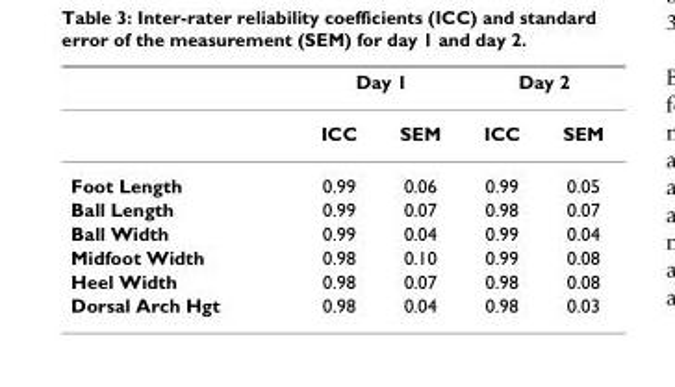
<table><thead><tr><td rowspan="2"></td><td colspan="2">Day 1</td><td colspan="2">Day 2</td></tr><tr><td>ICC</td><td>SEM</td><td>ICC</td><td>SEM</td></tr></thead><tbody><tr><td>Foot Length</td><td>0.99</td><td>0.06</td><td>0.99</td><td>0.05</td></tr><tr><td>Ball Length</td><td>0.99</td><td>0.07</td><td>0.98</td><td>0.07</td></tr><tr><td>Ball Width</td><td>0.99</td><td>0.04</td><td>0.99</td><td>0.04</td></tr><tr><td>Midfoot Width</td><td>0.98</td><td>0.10</td><td>0.99</td><td>0.08</td></tr><tr><td>Heel Width</td><td>0.98</td><td>0.07</td><td>0.98</td><td>0.08</td></tr><tr><td>Dorsal Arch Hgt</td><td>0.98</td><td>0.04</td><td>0.98</td><td>0.03</td></tr></tbody></table>